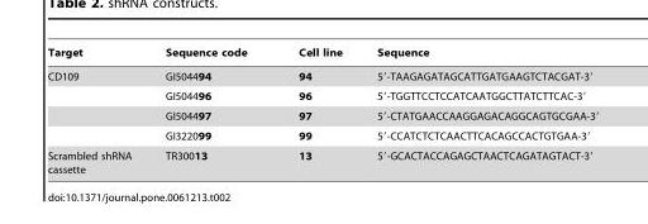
<table><thead><tr><td>Target</td><td>Sequence code</td><td>Cell line</td><td>Sequence</td></tr></thead><tbody><tr><td rowspan="4">CD109</td><td>GI504494</td><td>94</td><td>5′-TAAGAGATAGCATTGATGAAGTCTACGAT-3′</td></tr><tr><td>GI504496</td><td>96</td><td>5′-TGGTTCCTCCATCAATGGCTTATCTTCAC-3′</td></tr><tr><td>GI504497</td><td>97</td><td>5′-CTATGAACCAAGGAGACAGGCAGTGCGAA-3′</td></tr><tr><td>GI322099</td><td>99</td><td>5′-CCATCTCTCAACTTCACAGCCACTGTGAA-3′</td></tr><tr><td>Scrambled shRNA cassette</td><td>TR30013</td><td>13</td><td>5′-GCACTACCAGAGCTAACTCAGATAGTACT-3′</td></tr></tbody></table>